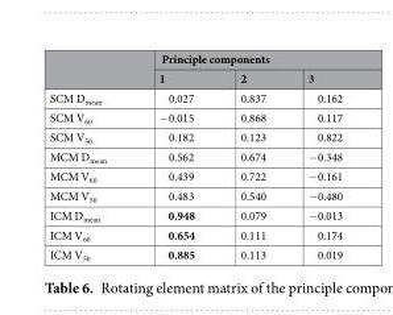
<table><thead><tr><td rowspan="2"></td><td colspan="3">Principle components</td></tr><tr><td>1</td><td>2</td><td>3</td></tr></thead><tbody><tr><td>SCM D<sub>mean</sub></td><td>0.027</td><td>0.837</td><td>0.162</td></tr><tr><td>SCM V<sub>60</sub></td><td>−0.015</td><td>0.868</td><td>0.117</td></tr><tr><td>SCM V<sub>50</sub></td><td>0.182</td><td>0.123</td><td>0.822</td></tr><tr><td>MCM D<sub>mean</sub></td><td>0.562</td><td>0.674</td><td>−0.348</td></tr><tr><td>MCM V<sub>60</sub></td><td>0.439</td><td>0.722</td><td>−0.161</td></tr><tr><td>MCM V<sub>50</sub></td><td>0.483</td><td>0.540</td><td>−0.480</td></tr><tr><td>ICM D<sub>mean</sub></td><td>0.948</td><td>0.079</td><td>−0.013</td></tr><tr><td>ICM V<sub>60</sub></td><td>0.654</td><td>0.111</td><td>0.174</td></tr><tr><td>ICM V<sub>50</sub></td><td>0.885</td><td>0.113</td><td>0.019</td></tr></tbody></table>